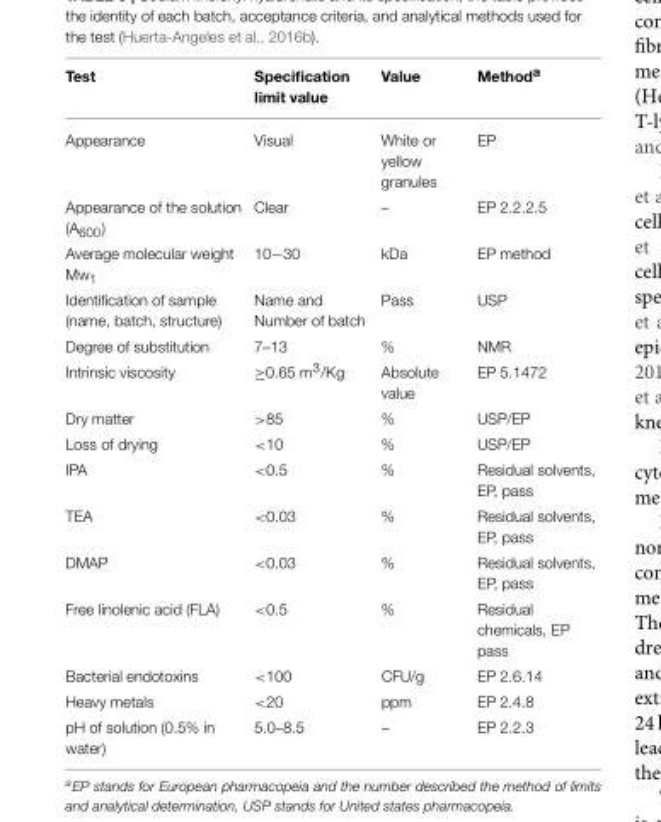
<table><thead><tr><td>Test</td><td>Specification limit value</td><td>Value</td><td>Method<sup>a</sup></td></tr></thead><tbody><tr><td>Appearance</td><td>Visual</td><td>White or yellow granules</td><td>EP</td></tr><tr><td>Appearance of the solution (A<sub>600</sub>)</td><td>Clear</td><td>–</td><td>EP 2.2.2.5</td></tr><tr><td>Average molecular weight Mw<sub>1</sub></td><td>10−30</td><td>kDa</td><td>EP method</td></tr><tr><td>Identification of sample (name, batch, structure)</td><td>Name and Number of batch</td><td>Pass</td><td>USP</td></tr><tr><td>Degree of substitution</td><td>7–13</td><td>%</td><td>NMR</td></tr><tr><td>Intrinsic viscosity</td><td>≥0.65 m<sup>3</sup>/Kg</td><td>Absolute value</td><td>EP 5.1472</td></tr><tr><td>Dry matter</td><td>&gt;85</td><td>%</td><td>USP/EP</td></tr><tr><td>Loss of drying</td><td>&lt;10</td><td>%</td><td>USP/EP</td></tr><tr><td>IPA</td><td>&lt;0.5</td><td>%</td><td>Residual solvents, EP, pass</td></tr><tr><td>TEA</td><td>&lt;0.03</td><td>%</td><td>Residual solvents, EP, pass</td></tr><tr><td>DMAP</td><td>&lt;0.03</td><td>%</td><td>Residual solvents, EP, pass</td></tr><tr><td>Free linolenic acid (FLA)</td><td>&lt;0.5</td><td>%</td><td>Residual chemicals, EP pass</td></tr><tr><td>Bacterial endotoxins</td><td>&lt;100</td><td>CFU/g</td><td>EP 2.6.14</td></tr><tr><td>Heavy metals</td><td>&lt;20</td><td>ppm</td><td>EP 2.4.8</td></tr><tr><td>pH of solution (0.5% in water)</td><td>5.0–8.5</td><td>–</td><td>EP 2.2.3</td></tr></tbody></table>